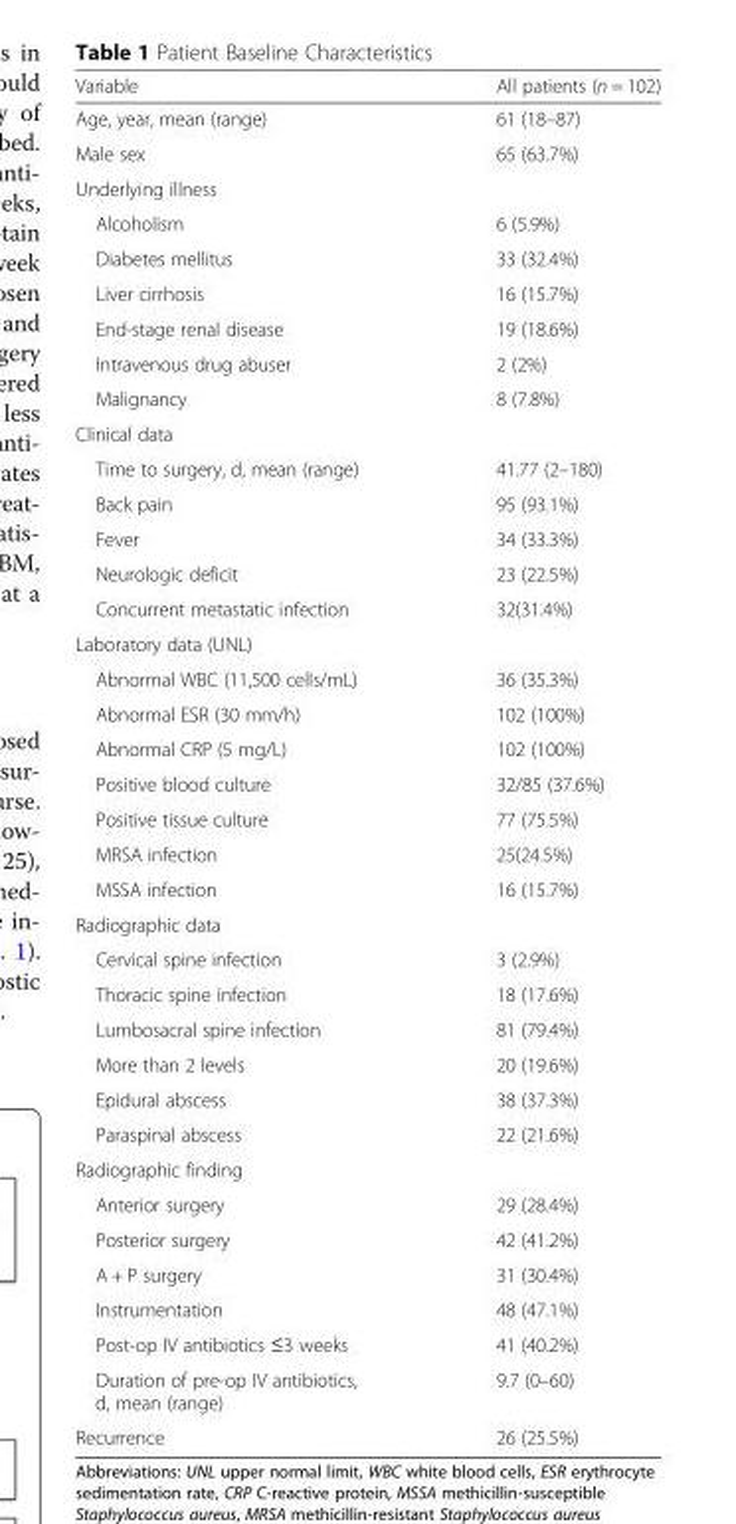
<table><thead><tr><td>Variable</td><td>All patients (n = 102)</td></tr></thead><tbody><tr><td>Age, year, mean (range)</td><td>61 (18–87)</td></tr><tr><td>Male sex</td><td>65 (63.7%)</td></tr><tr><td colspan="2">Underlying illness</td></tr><tr><td>Alcoholism</td><td>6 (5.9%)</td></tr><tr><td>Diabetes mellitus</td><td>33 (32.4%)</td></tr><tr><td>Liver cirrhosis</td><td>16 (15.7%)</td></tr><tr><td>End-stage renal disease</td><td>19 (18.6%)</td></tr><tr><td>Intravenous drug abuser</td><td>2 (2%)</td></tr><tr><td>Malignancy</td><td>8 (7.8%)</td></tr><tr><td colspan="2">Clinical data</td></tr><tr><td>Time to surgery, d, mean (range)</td><td>41.77 (2–180)</td></tr><tr><td>Back pain</td><td>95 (93.1%)</td></tr><tr><td>Fever</td><td>34 (33.3%)</td></tr><tr><td>Neurologic deficit</td><td>23 (22.5%)</td></tr><tr><td>Concurrent metastatic infection</td><td>32(31.4%)</td></tr><tr><td colspan="2">Laboratory data (UNL)</td></tr><tr><td>Abnormal WBC (11,500 cells/mL)</td><td>36 (35.3%)</td></tr><tr><td>Abnormal ESR (30 mm/h)</td><td>102 (100%)</td></tr><tr><td>Abnormal CRP (5 mg/L)</td><td>102 (100%)</td></tr><tr><td>Positive blood culture</td><td>32/85 (37.6%)</td></tr><tr><td>Positive tissue culture</td><td>77 (75.5%)</td></tr><tr><td>MRSA infection</td><td>25(24.5%)</td></tr><tr><td>MSSA infection</td><td>16 (15.7%)</td></tr><tr><td colspan="2">Radiographic data</td></tr><tr><td>Cervical spine infection</td><td>3 (2.9%)</td></tr><tr><td>Thoracic spine infection</td><td>18 (17.6%)</td></tr><tr><td>Lumbosacral spine infection</td><td>81 (79.4%)</td></tr><tr><td>More than 2 levels</td><td>20 (19.6%)</td></tr><tr><td>Epidural abscess</td><td>38 (37.3%)</td></tr><tr><td>Paraspinal abscess</td><td>22 (21.6%)</td></tr><tr><td colspan="2">Radiographic finding</td></tr><tr><td>Anterior surgery</td><td>29 (28.4%)</td></tr><tr><td>Posterior surgery</td><td>42 (41.2%)</td></tr><tr><td>A + P surgery</td><td>31 (30.4%)</td></tr><tr><td>Instrumentation</td><td>48 (47.1%)</td></tr><tr><td>Post-op IV antibiotics ≤3 weeks</td><td>41 (40.2%)</td></tr><tr><td>Duration of pre-op IV antibiotics, d, mean (range)</td><td>9.7 (0–60)</td></tr><tr><td>Recurrence</td><td>26 (25.5%)</td></tr></tbody></table>